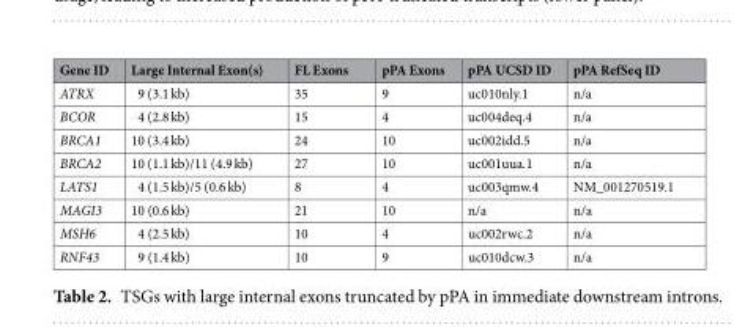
<table><thead><tr><td>Gene ID</td><td>Large Internal Exon(s)</td><td>FL Exons</td><td>pPA Exons</td><td>pPA UCSD ID</td><td>pPA RefSeq ID</td></tr></thead><tbody><tr><td>ATRX</td><td>9 (3.1 kb)</td><td>35</td><td>9</td><td>uc010nly.1</td><td>n/a</td></tr><tr><td>BCOR</td><td>4 (2.8 kb)</td><td>15</td><td>4</td><td>uc004deq.4</td><td>n/a</td></tr><tr><td>BRCA1</td><td>10 (3.4 kb)</td><td>24</td><td>10</td><td>uc002idd.5</td><td>n/a</td></tr><tr><td>BRCA2</td><td>10 (1.1 kb)/11 (4.9 kb)</td><td>27</td><td>10</td><td>uc001uua.1</td><td>n/a</td></tr><tr><td>LATS1</td><td>4 (1.5 kb)/5 (0.6 kb)</td><td>8</td><td>4</td><td>uc003qmw.4</td><td>NM_001270519.1</td></tr><tr><td>MAGI3</td><td>10 (0.6 kb)</td><td>21</td><td>10</td><td>n/a</td><td>n/a</td></tr><tr><td>MSH6</td><td>4 (2.5 kb)</td><td>10</td><td>4</td><td>uc002rwc.2</td><td>n/a</td></tr><tr><td>RNF43</td><td>9 (1.4 kb)</td><td>10</td><td>9</td><td>uc010dcw.3</td><td>n/a</td></tr></tbody></table>